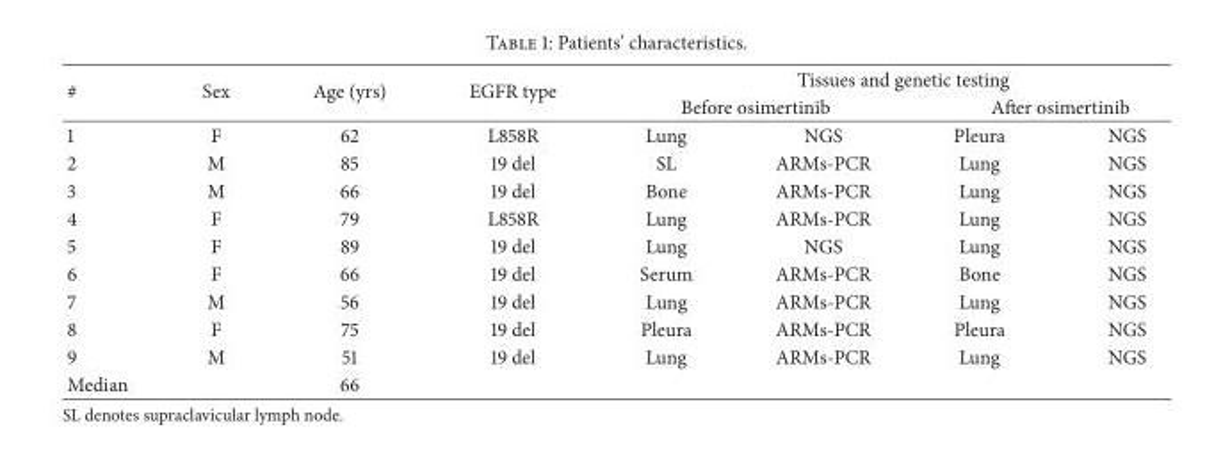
<table><thead><tr><td rowspan="3"># 1</td><td rowspan="3">Sex F</td><td rowspan="3">Age (yrs) 62</td><td rowspan="3">EGFR type L858R</td><td colspan="4">Tissues and genetic testing</td></tr><tr><td colspan="2">Before osimertinib</td><td colspan="2">After osimertinib</td></tr><tr><td>Lung</td><td>NGS</td><td>Pleura</td><td>NGS</td></tr></thead><tbody><tr><td>2</td><td>M</td><td>85</td><td>19 del</td><td>SL</td><td>ARMs-PCR</td><td>Lung</td><td>NGS</td></tr><tr><td>3</td><td>M</td><td>66</td><td>19 del</td><td>Bone</td><td>ARMs-PCR</td><td>Lung</td><td>NGS</td></tr><tr><td>4</td><td>F</td><td>79</td><td>L858R</td><td>Lung</td><td>ARMs-PCR</td><td>Lung</td><td>NGS</td></tr><tr><td>5</td><td>F</td><td>89</td><td>19 del</td><td>Lung</td><td>NGS</td><td>Lung</td><td>NGS</td></tr><tr><td>6</td><td>F</td><td>66</td><td>19 del</td><td>Serum</td><td>ARMs-PCR</td><td>Bone</td><td>NGS</td></tr><tr><td>7</td><td>M</td><td>56</td><td>19 del</td><td>Lung</td><td>ARMs-PCR</td><td>Lung</td><td>NGS</td></tr><tr><td>8</td><td>F</td><td>75</td><td>19 del</td><td>Pleura</td><td>ARMs-PCR</td><td>Pleura</td><td>NGS</td></tr><tr><td>9</td><td>M</td><td>51</td><td>19 del</td><td>Lung</td><td>ARMs-PCR</td><td>Lung</td><td>NGS</td></tr><tr><td>Median</td><td></td><td>66</td><td></td><td></td><td></td><td></td><td></td></tr></tbody></table>